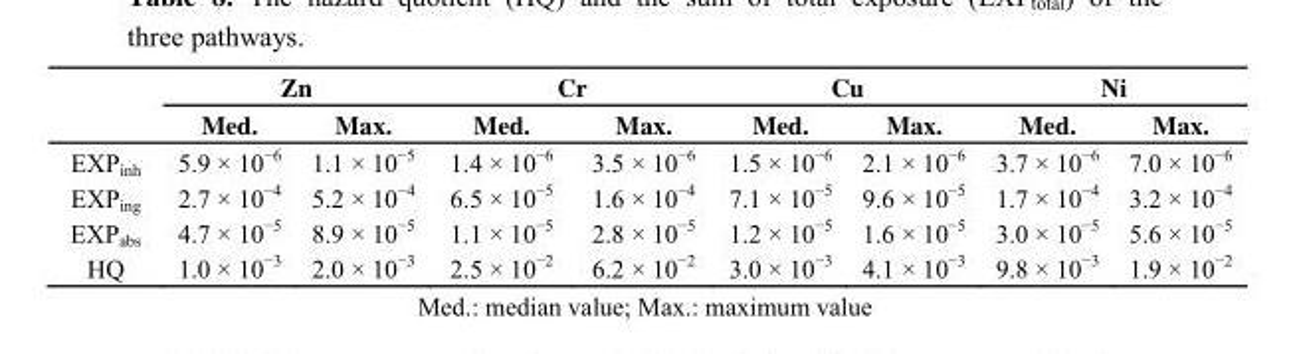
<table><thead><tr><td rowspan="2"></td><td colspan="2">Zn</td><td colspan="2">Cr</td><td colspan="2">Cu</td><td colspan="2">Ni</td></tr><tr><td>Med.</td><td>Max.</td><td>Med.</td><td>Max.</td><td>Med.</td><td>Max.</td><td>Med.</td><td>Max.</td></tr></thead><tbody><tr><td>EXP<sub>inh</sub></td><td>5.9 × 10<sup>−6</sup></td><td>1.1 × 10<sup>−5</sup></td><td>1.4 × 10<sup>−6</sup></td><td>3.5 × 10<sup>−6</sup></td><td>1.5 × 10<sup>−6</sup></td><td>2.1 × 10<sup>−6</sup></td><td>3.7 × 10<sup>−6</sup></td><td>7.0 × 10<sup>−6</sup></td></tr><tr><td>EXP<sub>ing</sub></td><td>2.7 × 10<sup>−4</sup></td><td>5.2 × 10<sup>−4</sup></td><td>6.5 × 10<sup>−5</sup></td><td>1.6 × 10<sup>−4</sup></td><td>7.1 × 10<sup>−5</sup></td><td>9.6 × 10<sup>−5</sup></td><td>1.7 × 10<sup>−4</sup></td><td>3.2 × 10<sup>−4</sup></td></tr><tr><td>EXP<sub>abs</sub></td><td>4.7 × 10<sup>−5</sup></td><td>8.9 × 10<sup>−5</sup></td><td>1.1 × 10<sup>−5</sup></td><td>2.8 × 10<sup>−5</sup></td><td>1.2 × 10<sup>−5</sup></td><td>1.6 × 10<sup>−5</sup></td><td>3.0 × 10<sup>−5</sup></td><td>5.6 × 10<sup>−5</sup></td></tr><tr><td>HQ</td><td>1.0 × 10<sup>−3</sup></td><td>2.0 × 10<sup>−3</sup></td><td>2.5 × 10<sup>−2</sup></td><td>6.2 × 10<sup>−2</sup></td><td>3.0 × 10<sup>−3</sup></td><td>4.1 × 10<sup>−3</sup></td><td>9.8 × 10<sup>−3</sup></td><td>1.9 × 10<sup>−2</sup></td></tr></tbody></table>